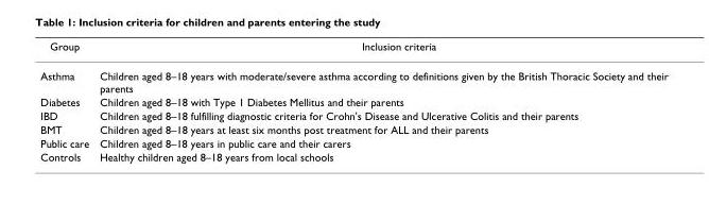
<table><thead><tr><td>Group</td><td>Inclusion criteria</td></tr></thead><tbody><tr><td>Asthma</td><td>Children aged 8–18 years with moderate/severe asthma according to definitions given by the British Thoracic Society and their parents</td></tr><tr><td>Diabetes</td><td>Children aged 8–18 with Type 1 Diabetes Mellitus and their parents</td></tr><tr><td>IBD</td><td>Children aged 8–18 fulfilling diagnostic criteria for Crohn&#x27;s Disease and Ulcerative Colitis and their parents</td></tr><tr><td>BMT</td><td>Children aged 8–18 years at least six months post treatment for ALL and their parents</td></tr><tr><td>Public care</td><td>Children aged 8–18 years in public care and their carers</td></tr><tr><td>Controls</td><td>Healthy children aged 8–18 years from local schools</td></tr></tbody></table>